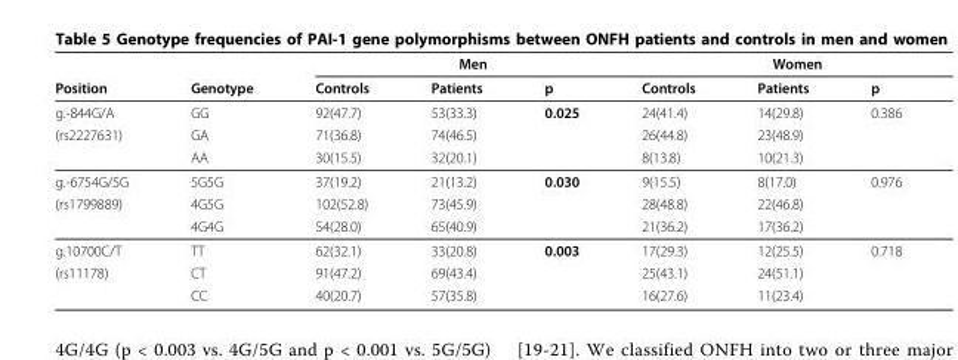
<table><thead><tr><td rowspan="2">Position</td><td rowspan="2">Genotype</td><td colspan="3">Men</td><td colspan="3">Women</td></tr><tr><td>Controls</td><td>Patients</td><td>p</td><td>Controls</td><td>Patients</td><td>p</td></tr></thead><tbody><tr><td>g.-844G/A</td><td>GG</td><td>92(47.7)</td><td>53(33.3)</td><td>0.025</td><td>24(41.4)</td><td>14(29.8)</td><td>0.386</td></tr><tr><td rowspan="2">(rs2227631)</td><td>GA</td><td>71(36.8)</td><td>74(46.5)</td><td></td><td>26(44.8)</td><td>23(48.9)</td><td></td></tr><tr><td>AA</td><td>30(15.5)</td><td>32(20.1)</td><td></td><td>8(13.8)</td><td>10(21.3)</td><td></td></tr><tr><td>g.-6754G/5G</td><td>5G5G</td><td>37(19.2)</td><td>21(13.2)</td><td>0.030</td><td>9(15.5)</td><td>8(17.0)</td><td>0.976</td></tr><tr><td rowspan="2">(rs1799889)</td><td>4G5G</td><td>102(52.8)</td><td>73(45.9)</td><td></td><td>28(48.8)</td><td>22(46.8)</td><td></td></tr><tr><td>4G4G</td><td>54(28.0)</td><td>65(40.9)</td><td></td><td>21(36.2)</td><td>17(36.2)</td><td></td></tr><tr><td>g.10700C/T</td><td>TT</td><td>62(32.1)</td><td>33(20.8)</td><td>0.003</td><td>17(29.3)</td><td>12(25.5)</td><td>0.718</td></tr><tr><td rowspan="2">(rs11178)</td><td>CT</td><td>91(47.2)</td><td>69(43.4)</td><td></td><td>25(43.1)</td><td>24(51.1)</td><td></td></tr><tr><td>CC</td><td>40(20.7)</td><td>57(35.8)</td><td></td><td>16(27.6)</td><td>11(23.4)</td><td></td></tr></tbody></table>